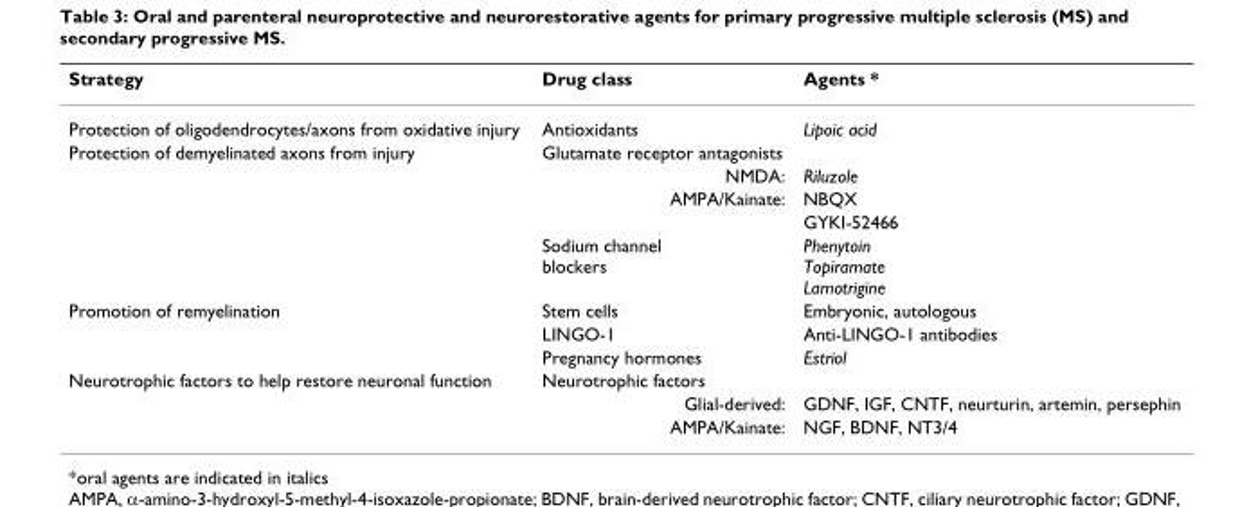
<table><thead><tr><td>Strategy</td><td>Drug class</td><td>Agents *</td></tr></thead><tbody><tr><td>Protection of oligodendrocytes/axons from oxidative injury</td><td>Antioxidants</td><td>Lipoic acid</td></tr><tr><td rowspan="5">Protection of demyelinated axons from injury</td><td>Glutamate receptor antagonists</td><td></td></tr><tr><td>NMDA:</td><td>Riluzole</td></tr><tr><td>AMPA/Kainate:</td><td>NBQX</td></tr><tr><td></td><td>GYKI-52466</td></tr><tr><td>Sodium channel blockers</td><td>Phenytoin Topiramate Lamotrigine</td></tr><tr><td rowspan="3">Promotion of remyelination</td><td>Stem cells</td><td>Embryonic, autologous</td></tr><tr><td>LINGO-1</td><td>Anti-LINGO-1 antibodies</td></tr><tr><td>Pregnancy hormones</td><td>Estriol</td></tr><tr><td rowspan="3">Neurotrophic factors to help restore neuronal function</td><td>Neurotrophic factors</td><td></td></tr><tr><td>Glial-derived:</td><td>GDNF, IGF, CNTF, neurturin, artemin, persephin</td></tr><tr><td>AMPA/Kainate:</td><td>NGF, BDNF, NT3/4</td></tr></tbody></table>